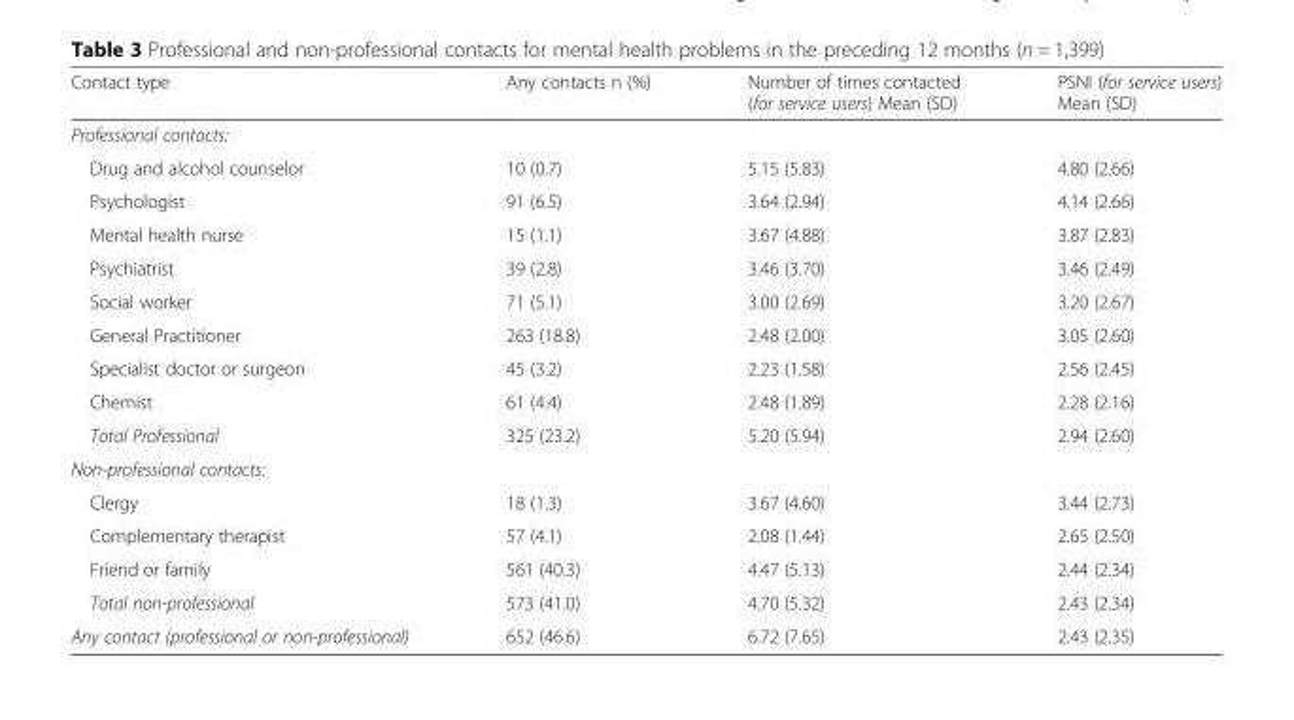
<table><thead><tr><td>Contact type</td><td>Any contacts n (%)</td><td>Number of times contacted (for service users) Mean (SD)</td><td>PSNI (for service users) Mean (SD)</td></tr></thead><tbody><tr><td colspan="4">Professional contacts:</td></tr><tr><td>Drug and alcohol counselor</td><td>10 (0.7)</td><td>5.15 (5.83)</td><td>4.80 (2.66)</td></tr><tr><td>Psychologist</td><td>91 (6.5)</td><td>3.64 (2.94)</td><td>4.14 (2.66)</td></tr><tr><td>Mental health nurse</td><td>15 (1.1)</td><td>3.67 (4.88)</td><td>3.87 (2.83)</td></tr><tr><td>Psychiatrist</td><td>39 (2.8)</td><td>3.46 (3.70)</td><td>3.46 (2.49)</td></tr><tr><td>Social worker</td><td>71 (5.1)</td><td>3.00 (2.69)</td><td>3.20 (2.67)</td></tr><tr><td>General Practitioner</td><td>263 (18.8)</td><td>2.48 (2.00)</td><td>3.05 (2.60)</td></tr><tr><td>Specialist doctor or surgeon</td><td>45 (3.2)</td><td>2.23 (1.58)</td><td>2.56 (2.45)</td></tr><tr><td>Chemist</td><td>61 (4.4)</td><td>2.48 (1.89)</td><td>2.28 (2.16)</td></tr><tr><td>Total Professional</td><td>325 (23.2)</td><td>5.20 (5.94)</td><td>2.94 (2.60)</td></tr><tr><td colspan="4">Non-professional contacts:</td></tr><tr><td>Clergy</td><td>18 (1.3)</td><td>3.67 (4.60)</td><td>3.44 (2.73)</td></tr><tr><td>Complementary therapist</td><td>57 (4.1)</td><td>2.08 (1.44)</td><td>2.65 (2.50)</td></tr><tr><td>Friend or family</td><td>561 (40.3)</td><td>4.47 (5.13)</td><td>2.44 (2.34)</td></tr><tr><td>Total non-professional</td><td>573 (41.0)</td><td>4.70 (5.32)</td><td>2.43 (2.34)</td></tr><tr><td>Any contact (professional or non-professional)</td><td>652 (46.6)</td><td>6.72 (7.65)</td><td>2.43 (2.35)</td></tr></tbody></table>